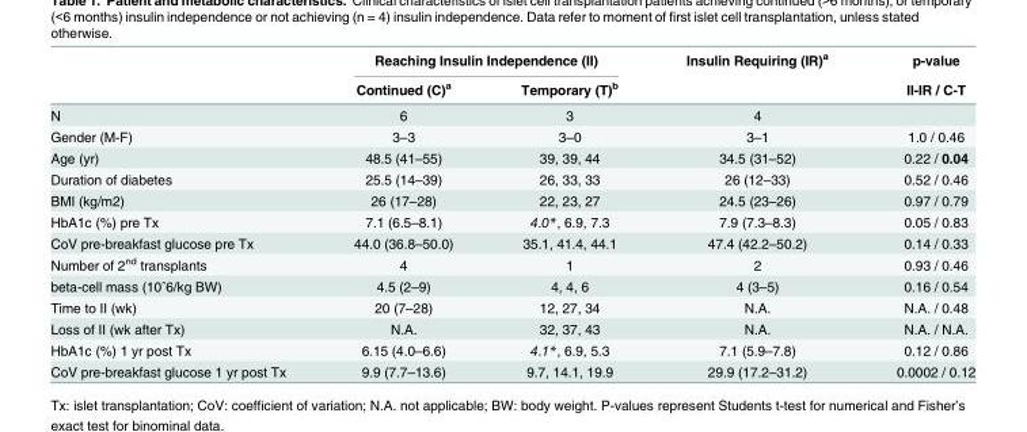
<table><thead><tr><td rowspan="2"></td><td colspan="2">Reaching Insulin Independence (II)</td><td rowspan="2">Insulin Requiring (IR)<sup>a</sup></td><td rowspan="2">p-value II-IR / C-T</td></tr><tr><td>Continued (C)<sup>a</sup></td><td>Temporary (T)<sup>b</sup></td></tr></thead><tbody><tr><td>N</td><td>6</td><td>3</td><td>4</td><td></td></tr><tr><td>Gender (M-F)</td><td>3–3</td><td>3–0</td><td>3–1</td><td>1.0 / 0.46</td></tr><tr><td>Age (yr)</td><td>48.5 (41–55)</td><td>39, 39, 44</td><td>34.5 (31–52)</td><td>0.22 / 0.04</td></tr><tr><td>Duration of diabetes</td><td>25.5 (14–39)</td><td>26, 33, 33</td><td>26 (12–33)</td><td>0.52 / 0.46</td></tr><tr><td>BMI (kg/m2)</td><td>26 (17–28)</td><td>22, 23, 27</td><td>24.5 (23–26)</td><td>0.97 / 0.79</td></tr><tr><td>HbA1c (%) pre Tx</td><td>7.1 (6.5–8.1)</td><td>4.0*, 6.9, 7.3</td><td>7.9 (7.3–8.3)</td><td>0.05 / 0.83</td></tr><tr><td>CoV pre-breakfast glucose pre Tx</td><td>44.0 (36.8–50.0)</td><td>35.1, 41.4, 44.1</td><td>47.4 (42.2–50.2)</td><td>0.14 / 0.33</td></tr><tr><td>Number of 2<sup>nd</sup> transplants</td><td>4</td><td>1</td><td>2</td><td>0.93 / 0.46</td></tr><tr><td>beta-cell mass (10ˆ6/kg BW)</td><td>4.5 (2–9)</td><td>4, 4, 6</td><td>4 (3–5)</td><td>0.16 / 0.54</td></tr><tr><td>Time to II (wk)</td><td>20 (7–28)</td><td>12, 27, 34</td><td>N.A.</td><td>N.A. / 0.48</td></tr><tr><td>Loss of II (wk after Tx)</td><td>N.A.</td><td>32, 37, 43</td><td>N.A.</td><td>N.A. / N.A.</td></tr><tr><td>HbA1c (%) 1 yr post Tx</td><td>6.15 (4.0–6.6)</td><td>4.1*, 6.9, 5.3</td><td>7.1 (5.9–7.8)</td><td>0.12 / 0.86</td></tr><tr><td>CoV pre-breakfast glucose 1 yr post Tx</td><td>9.9 (7.7–13.6)</td><td>9.7, 14.1, 19.9</td><td>29.9 (17.2–31.2)</td><td>0.0002 / 0.12</td></tr></tbody></table>